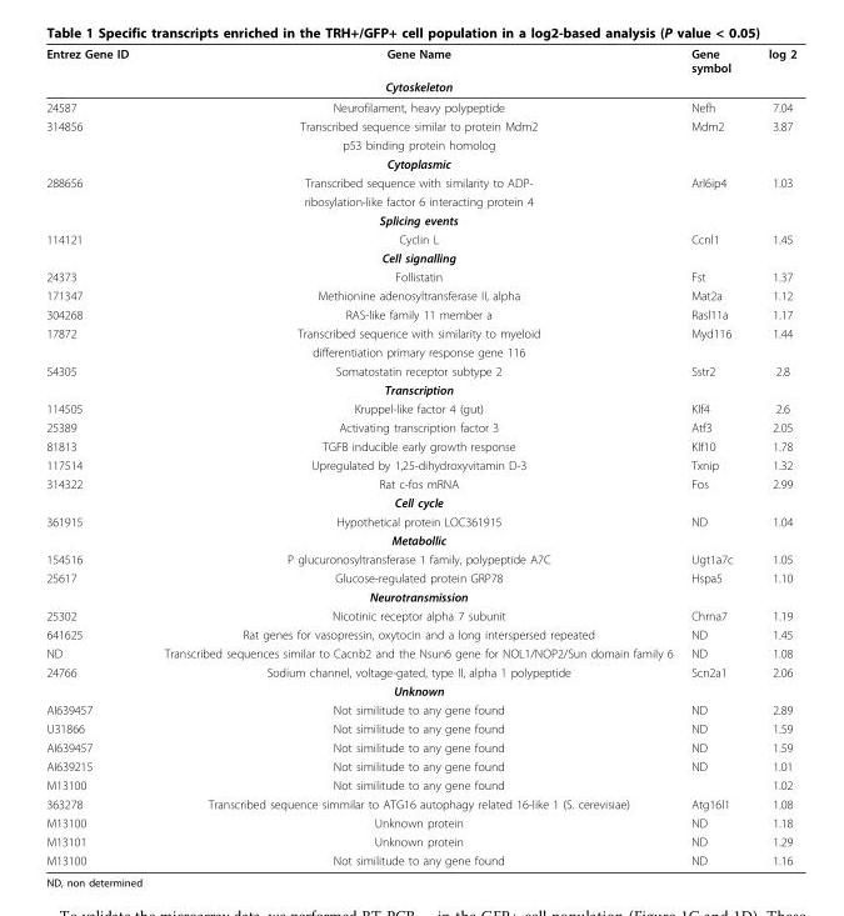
<table><thead><tr><td rowspan="2">Entrez Gene ID</td><td rowspan="2">Gene Name Cytoskeleton</td><td rowspan="2">Gene symbol</td><td rowspan="2">log 2</td></tr><tr></tr></thead><tbody><tr><td>24587</td><td>Neurofilament, heavy polypeptide</td><td>Nefh</td><td>7.04</td></tr><tr><td rowspan="3">314856</td><td>Transcribed sequence similar to protein Mdm2</td><td>Mdm2</td><td>3.87</td></tr><tr><td>p53 binding protein homolog</td><td></td><td></td></tr><tr><td>Cytoplasmic</td><td></td><td></td></tr><tr><td rowspan="3">288656</td><td>Transcribed sequence with similarity to ADP-</td><td>Arl6ip4</td><td>1.03</td></tr><tr><td>ribosylation-like factor 6 interacting protein 4</td><td></td><td></td></tr><tr><td>Splicing events</td><td></td><td></td></tr><tr><td rowspan="2">114121</td><td>Cyclin L</td><td>Ccnl1</td><td>1.45</td></tr><tr><td>Cell signalling</td><td></td><td></td></tr><tr><td>24373</td><td>Follistatin</td><td>Fst</td><td>1.37</td></tr><tr><td>171347</td><td>Methionine adenosyltransferase II, alpha</td><td>Mat2a</td><td>1.12</td></tr><tr><td>304268</td><td>RAS-like family 11 member a</td><td>Rasl11a</td><td>1.17</td></tr><tr><td rowspan="2">17872</td><td>Transcribed sequence with similarity to myeloid</td><td>Myd116</td><td>1.44</td></tr><tr><td>differentiation primary response gene 116</td><td></td><td></td></tr><tr><td rowspan="2">54305</td><td>Somatostatin receptor subtype 2</td><td>Sstr2</td><td>2.8</td></tr><tr><td>Transcription</td><td></td><td></td></tr><tr><td>114505</td><td>Kruppel-like factor 4 (gut)</td><td>Klf4</td><td>2.6</td></tr><tr><td>25389</td><td>Activating transcription factor 3</td><td>Atf3</td><td>2.05</td></tr><tr><td>81813</td><td>TGFB inducible early growth response</td><td>Klf10</td><td>1.78</td></tr><tr><td>117514</td><td>Upregulated by 1,25-dihydroxyvitamin D-3</td><td>Txnip</td><td>1.32</td></tr><tr><td rowspan="2">314322</td><td>Rat c-fos mRNA</td><td>Fos</td><td>2.99</td></tr><tr><td>Cell cycle</td><td></td><td></td></tr><tr><td rowspan="2">361915</td><td>Hypothetical protein LOC361915</td><td>ND</td><td>1.04</td></tr><tr><td>Metabollic</td><td></td><td></td></tr><tr><td>154516</td><td>P glucuronosyltransferase 1 family, polypeptide A7C</td><td>Ugt1a7c</td><td>1.05</td></tr><tr><td rowspan="2">25617</td><td>Glucose-regulated protein GRP78</td><td>Hspa5</td><td>1.10</td></tr><tr><td>Neurotransmission</td><td></td><td></td></tr><tr><td>25302</td><td>Nicotinic receptor alpha 7 subunit</td><td>Chrna7</td><td>1.19</td></tr><tr><td>641625</td><td>Rat genes for vasopressin, oxytocin and a long interspersed repeated</td><td>ND</td><td>1.45</td></tr><tr><td>ND</td><td>Transcribed sequences similar to Cacnb2 and the Nsun6 gene for NOL1/NOP2/Sun domain family 6</td><td>ND</td><td>1.08</td></tr><tr><td rowspan="2">24766</td><td>Sodium channel, voltage-gated, type II, alpha 1 polypeptide</td><td>Scn2a1</td><td>2.06</td></tr><tr><td>Unknown</td><td></td><td></td></tr><tr><td>AI639457</td><td>Not similitude to any gene found</td><td>ND</td><td>2.89</td></tr><tr><td>U31866</td><td>Not similitude to any gene found</td><td>ND</td><td>1.59</td></tr><tr><td>AI639457</td><td>Not similitude to any gene found</td><td>ND</td><td>1.59</td></tr><tr><td>AI639215</td><td>Not similitude to any gene found</td><td>ND</td><td>1.01</td></tr><tr><td>M13100</td><td>Not similitude to any gene found</td><td></td><td>1.02</td></tr><tr><td>363278</td><td>Transcribed sequence simmilar to ATG16 autophagy related 16-like 1 (S. cerevisiae)</td><td>Atg16l1</td><td>1.08</td></tr><tr><td>M13100</td><td>Unknown protein</td><td>ND</td><td>1.18</td></tr><tr><td>M13101</td><td>Unknown protein</td><td>ND</td><td>1.29</td></tr><tr><td>M13100</td><td>Not similitude to any gene found</td><td>ND</td><td>1.16</td></tr></tbody></table>